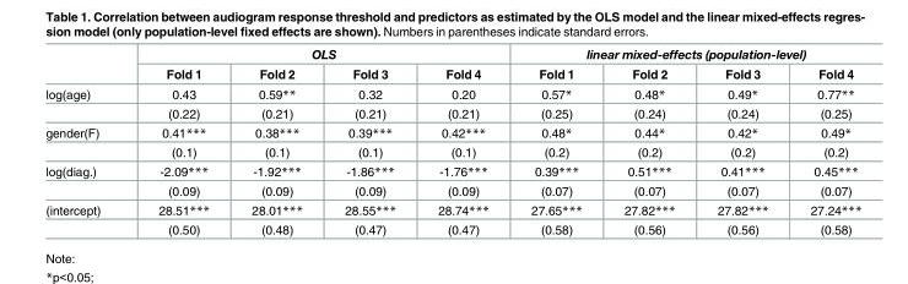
<table><thead><tr><td rowspan="2"></td><td colspan="4">OLS</td><td colspan="4">linear mixed-effects (population-level)</td></tr><tr><td>Fold 1</td><td>Fold 2</td><td>Fold 3</td><td>Fold 4</td><td>Fold 1</td><td>Fold 2</td><td>Fold 3</td><td>Fold 4</td></tr></thead><tbody><tr><td rowspan="2">log(age)</td><td>0.43</td><td>0.59**</td><td>0.32</td><td>0.20</td><td>0.57*</td><td>0.48*</td><td>0.49*</td><td>0.77**</td></tr><tr><td>(0.22)</td><td>(0.21)</td><td>(0.21)</td><td>(0.21)</td><td>(0.25)</td><td>(0.24)</td><td>(0.24)</td><td>(0.25)</td></tr><tr><td rowspan="2">gender(F)</td><td>0.41***</td><td>0.38***</td><td>0.39***</td><td>0.42***</td><td>0.48*</td><td>0.44*</td><td>0.42*</td><td>0.49*</td></tr><tr><td>(0.1)</td><td>(0.1)</td><td>(0.1)</td><td>(0.1)</td><td>(0.2)</td><td>(0.2)</td><td>(0.2)</td><td>(0.2)</td></tr><tr><td rowspan="2">log(diag.)</td><td>-2.09***</td><td>-1.92***</td><td>-1.86***</td><td>-1.76***</td><td>0.39***</td><td>0.51***</td><td>0.41***</td><td>0.45***</td></tr><tr><td>(0.09)</td><td>(0.09)</td><td>(0.09)</td><td>(0.09)</td><td>(0.07)</td><td>(0.07)</td><td>(0.07)</td><td>(0.07)</td></tr><tr><td rowspan="2">(intercept)</td><td>28.51***</td><td>28.01***</td><td>28.55***</td><td>28.74***</td><td>27.65***</td><td>27.82***</td><td>27.82***</td><td>27.24***</td></tr><tr><td>(0.50)</td><td>(0.48)</td><td>(0.47)</td><td>(0.47)</td><td>(0.58)</td><td>(0.56)</td><td>(0.56)</td><td>(0.58)</td></tr></tbody></table>